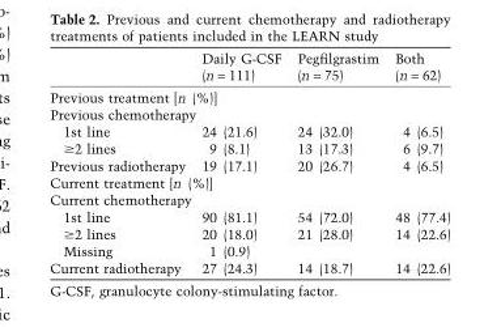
<table><thead><tr><td></td><td>Daily G-CSF (n = 111)</td><td>Pegfilgrastim (n = 75)</td><td>Both (n = 62)</td></tr></thead><tbody><tr><td colspan="4">Previous treatment [n (%)]</td></tr><tr><td colspan="4">Previous chemotherapy</td></tr><tr><td>1st line</td><td>24 (21.6)</td><td>24 (32.0)</td><td>4 (6.5)</td></tr><tr><td>≥2 lines</td><td>9 (8.1)</td><td>13 (17.3)</td><td>6 (9.7)</td></tr><tr><td>Previous radiotherapy</td><td>19 (17.1)</td><td>20 (26.7)</td><td>4 (6.5)</td></tr><tr><td colspan="4">Current treatment [n (%)]</td></tr><tr><td colspan="4">Current chemotherapy</td></tr><tr><td>1st line</td><td>90 (81.1)</td><td>54 (72.0)</td><td>48 (77.4)</td></tr><tr><td>≥2 lines</td><td>20 (18.0)</td><td>21 (28.0)</td><td>14 (22.6)</td></tr><tr><td>Missing</td><td>1 (0.9)</td><td></td><td></td></tr><tr><td>Current radiotherapy</td><td>27 (24.3)</td><td>14 (18.7)</td><td>14 (22.6)</td></tr></tbody></table>